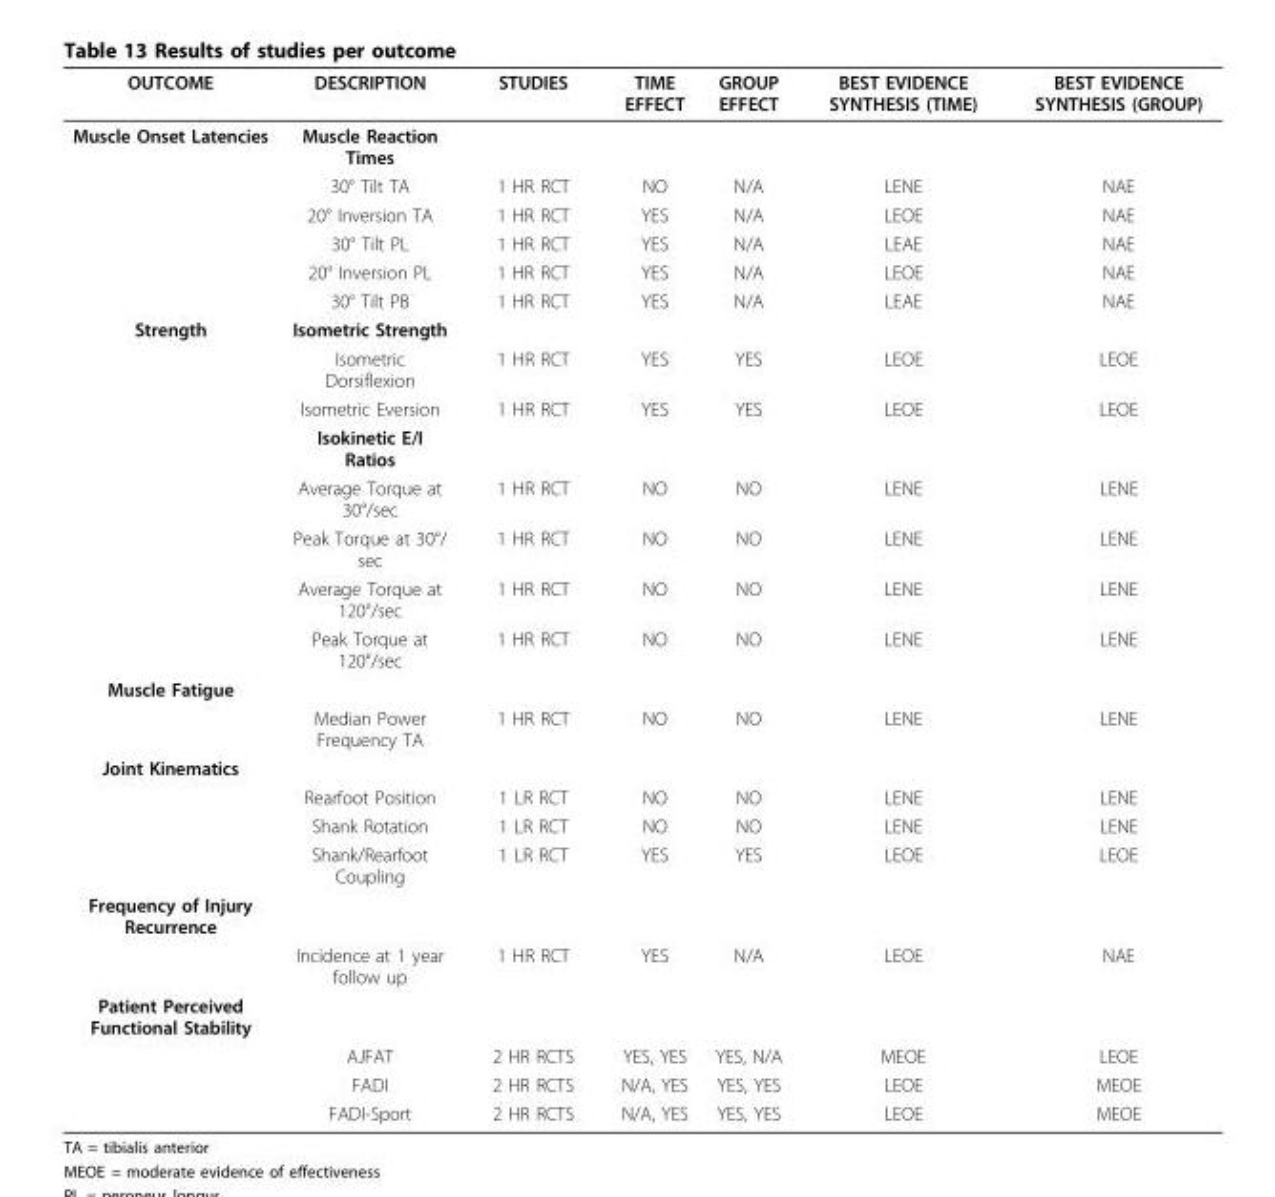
<table><thead><tr><td>OUTCOME</td><td>DESCRIPTION</td><td>STUDIES</td><td>TIME EFFECT</td><td>GROUP EFFECT</td><td>BEST EVIDENCE SYNTHESIS (TIME)</td><td>BEST EVIDENCE SYNTHESIS (GROUP)</td></tr></thead><tbody><tr><td rowspan="6">Muscle Onset Latencies</td><td>Muscle Reaction Times</td><td></td><td></td><td></td><td></td><td></td></tr><tr><td>30° Tilt TA</td><td>1 HR RCT</td><td>NO</td><td>N/A</td><td>LENE</td><td>NAE</td></tr><tr><td>20° Inversion TA</td><td>1 HR RCT</td><td>YES</td><td>N/A</td><td>LEOE</td><td>NAE</td></tr><tr><td>30° Tilt PL</td><td>1 HR RCT</td><td>YES</td><td>N/A</td><td>LEAE</td><td>NAE</td></tr><tr><td>20° Inversion PL</td><td>1 HR RCT</td><td>YES</td><td>N/A</td><td>LEOE</td><td>NAE</td></tr><tr><td>30° Tilt PB</td><td>1 HR RCT</td><td>YES</td><td>N/A</td><td>LEAE</td><td>NAE</td></tr><tr><td rowspan="8">Strength</td><td>Isometric Strength</td><td></td><td></td><td></td><td></td><td></td></tr><tr><td>Isometric Dorsiflexion</td><td>1 HR RCT</td><td>YES</td><td>YES</td><td>LEOE</td><td>LEOE</td></tr><tr><td>Isometric Eversion</td><td>1 HR RCT</td><td>YES</td><td>YES</td><td>LEOE</td><td>LEOE</td></tr><tr><td>Isokinetic E/I Ratios</td><td></td><td></td><td></td><td></td><td></td></tr><tr><td>Average Torque at 30°/sec</td><td>1 HR RCT</td><td>NO</td><td>NO</td><td>LENE</td><td>LENE</td></tr><tr><td>Peak Torque at 30°/ sec</td><td>1 HR RCT</td><td>NO</td><td>NO</td><td>LENE</td><td>LENE</td></tr><tr><td>Average Torque at 120°/sec</td><td>1 HR RCT</td><td>NO</td><td>NO</td><td>LENE</td><td>LENE</td></tr><tr><td>Peak Torque at 120°/sec</td><td>1 HR RCT</td><td>NO</td><td>NO</td><td>LENE</td><td>LENE</td></tr><tr><td colspan="7">Muscle Fatigue</td></tr><tr><td></td><td>Median Power Frequency TA</td><td>1 HR RCT</td><td>NO</td><td>NO</td><td>LENE</td><td>LENE</td></tr><tr><td colspan="7">Joint Kinematics</td></tr><tr><td></td><td>Rearfoot Position</td><td>1 LR RCT</td><td>NO</td><td>NO</td><td>LENE</td><td>LENE</td></tr><tr><td></td><td>Shank Rotation</td><td>1 LR RCT</td><td>NO</td><td>NO</td><td>LENE</td><td>LENE</td></tr><tr><td></td><td>Shank/Rearfoot Coupling</td><td>1 LR RCT</td><td>YES</td><td>YES</td><td>LEOE</td><td>LEOE</td></tr><tr><td colspan="7">Frequency of Injury Recurrence</td></tr><tr><td></td><td>Incidence at 1 year follow up</td><td>1 HR RCT</td><td>YES</td><td>N/A</td><td>LEOE</td><td>NAE</td></tr><tr><td colspan="7">Patient Perceived Functional Stability</td></tr><tr><td></td><td>AJFAT</td><td>2 HR RCTS</td><td>YES, YES</td><td>YES, N/A</td><td>MEOE</td><td>LEOE</td></tr><tr><td></td><td>FADI</td><td>2 HR RCTS</td><td>N/A, YES</td><td>YES, YES</td><td>LEOE</td><td>MEOE</td></tr><tr><td></td><td>FADI-Sport</td><td>2 HR RCTS</td><td>N/A, YES</td><td>YES, YES</td><td>LEOE</td><td>MEOE</td></tr></tbody></table>